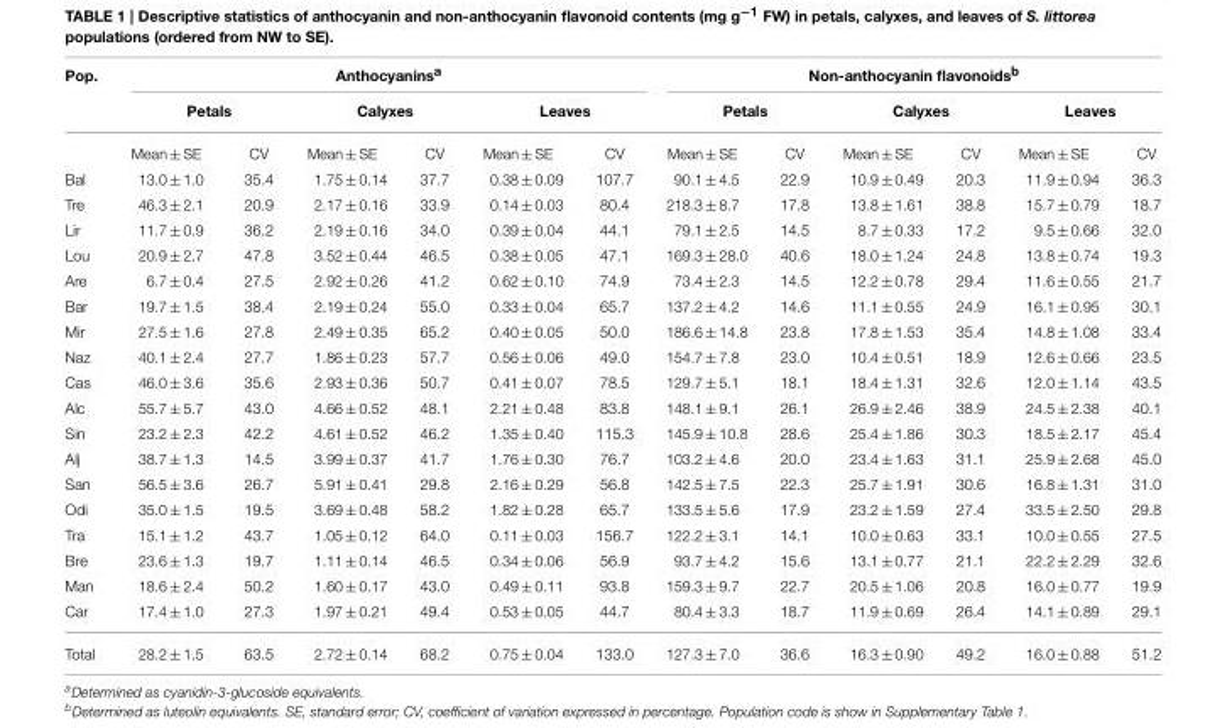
<table><thead><tr><td rowspan="3">Pop.</td><td colspan="6">Anthocyanins<sup>a</sup></td><td colspan="6">Non-anthocyanin flavonoids<sup>b</sup></td></tr><tr><td colspan="2">Petals</td><td colspan="2">Calyxes</td><td colspan="2">Leaves</td><td colspan="2">Petals</td><td colspan="2">Calyxes</td><td colspan="2">Leaves</td></tr><tr><td>Mean ± SE</td><td>CV</td><td>Mean ± SE</td><td>CV</td><td>Mean ± SE</td><td>CV</td><td>Mean ± SE</td><td>CV</td><td>Mean ± SE</td><td>CV</td><td>Mean ± SE</td><td>CV</td></tr></thead><tbody><tr><td>Bal</td><td>13.0 ± 1.0</td><td>35.4</td><td>1.75 ± 0.14</td><td>37.7</td><td>0.38 ± 0.09</td><td>107.7</td><td>90.1 ± 4.5</td><td>22.9</td><td>10.9 ± 0.49</td><td>20.3</td><td>11.9 ± 0.94</td><td>36.3</td></tr><tr><td>Tre</td><td>46.3 ± 2.1</td><td>20.9</td><td>2.17 ± 0.16</td><td>33.9</td><td>0.14 ± 0.03</td><td>80.4</td><td>218.3 ± 8.7</td><td>17.8</td><td>13.8 ± 1.61</td><td>38.8</td><td>15.7 ± 0.79</td><td>18.7</td></tr><tr><td>Lir</td><td>11.7 ± 0.9</td><td>36.2</td><td>2.19 ± 0.16</td><td>34.0</td><td>0.39 ± 0.04</td><td>44.1</td><td>79.1 ± 2.5</td><td>14.5</td><td>8.7 ± 0.33</td><td>17.2</td><td>9.5 ± 0.66</td><td>32.0</td></tr><tr><td>Lou</td><td>20.9 ± 2.7</td><td>47.8</td><td>3.52 ± 0.44</td><td>46.5</td><td>0.38 ± 0.05</td><td>47.1</td><td>169.3 ± 28.0</td><td>40.6</td><td>18.0 ± 1.24</td><td>24.8</td><td>13.8 ± 0.74</td><td>19.3</td></tr><tr><td>Are</td><td>6.7 ± 0.4</td><td>27.5</td><td>2.92 ± 0.26</td><td>41.2</td><td>0.62 ± 0.10</td><td>74.9</td><td>73.4 ± 2.3</td><td>14.5</td><td>12.2 ± 0.78</td><td>29.4</td><td>11.6 ± 0.55</td><td>21.7</td></tr><tr><td>Bar</td><td>19.7 ± 1.5</td><td>38.4</td><td>2.19 ± 0.24</td><td>55.0</td><td>0.33 ± 0.04</td><td>65.7</td><td>137.2 ± 4.2</td><td>14.6</td><td>11.1 ± 0.55</td><td>24.9</td><td>16.1 ± 0.95</td><td>30.1</td></tr><tr><td>Mir</td><td>27.5 ± 1.6</td><td>27.8</td><td>2.49 ± 0.35</td><td>65.2</td><td>0.40 ± 0.05</td><td>50.0</td><td>186.6 ± 14.8</td><td>23.8</td><td>17.8 ± 1.53</td><td>35.4</td><td>14.8 ± 1.08</td><td>33.4</td></tr><tr><td>Naz</td><td>40.1 ± 2.4</td><td>27.7</td><td>1.86 ± 0.23</td><td>57.7</td><td>0.56 ± 0.06</td><td>49.0</td><td>154.7 ± 7.8</td><td>23.0</td><td>10.4 ± 0.51</td><td>18.9</td><td>12.6 ± 0.66</td><td>23.5</td></tr><tr><td>Cas</td><td>46.0 ± 3.6</td><td>35.6</td><td>2.93 ± 0.36</td><td>50.7</td><td>0.41 ± 0.07</td><td>78.5</td><td>129.7 ± 5.1</td><td>18.1</td><td>18.4 ± 1.31</td><td>32.6</td><td>12.0 ± 1.14</td><td>43.5</td></tr><tr><td>Alc</td><td>55.7 ± 5.7</td><td>43.0</td><td>4.66 ± 0.52</td><td>48.1</td><td>2.21 ± 0.48</td><td>83.8</td><td>148.1 ± 9.1</td><td>26.1</td><td>26.9 ± 2.46</td><td>38.9</td><td>24.5 ± 2.38</td><td>40.1</td></tr><tr><td>Sin</td><td>23.2 ± 2.3</td><td>42.2</td><td>4.61 ± 0.52</td><td>46.2</td><td>1.35 ± 0.40</td><td>115.3</td><td>145.9 ± 10.8</td><td>28.6</td><td>25.4 ± 1.86</td><td>30.3</td><td>18.5 ± 2.17</td><td>45.4</td></tr><tr><td>Alj</td><td>38.7 ± 1.3</td><td>14.5</td><td>3.99 ± 0.37</td><td>41.7</td><td>1.76 ± 0.30</td><td>76.7</td><td>103.2 ± 4.6</td><td>20.0</td><td>23.4 ± 1.63</td><td>31.1</td><td>25.9 ± 2.68</td><td>45.0</td></tr><tr><td>San</td><td>56.5 ± 3.6</td><td>26.7</td><td>5.91 ± 0.41</td><td>29.8</td><td>2.16 ± 0.29</td><td>56.8</td><td>142.5 ± 7.5</td><td>22.3</td><td>25.7 ± 1.91</td><td>30.6</td><td>16.8 ± 1.31</td><td>31.0</td></tr><tr><td>Odi</td><td>35.0 ± 1.5</td><td>19.5</td><td>3.69 ± 0.48</td><td>58.2</td><td>1.82 ± 0.28</td><td>65.7</td><td>133.5 ± 5.6</td><td>17.9</td><td>23.2 ± 1.59</td><td>27.4</td><td>33.5 ± 2.50</td><td>29.8</td></tr><tr><td>Tra</td><td>15.1 ± 1.2</td><td>43.7</td><td>1.05 ± 0.12</td><td>64.0</td><td>0.11 ± 0.03</td><td>156.7</td><td>122.2 ± 3.1</td><td>14.1</td><td>10.0 ± 0.63</td><td>33.1</td><td>10.0 ± 0.55</td><td>27.5</td></tr><tr><td>Bre</td><td>23.6 ± 1.3</td><td>19.7</td><td>1.11 ± 0.14</td><td>46.5</td><td>0.34 ± 0.06</td><td>56.9</td><td>93.7 ± 4.2</td><td>15.6</td><td>13.1 ± 0.77</td><td>21.1</td><td>22.2 ± 2.29</td><td>32.6</td></tr><tr><td>Man</td><td>18.6 ± 2.4</td><td>50.2</td><td>1.60 ± 0.17</td><td>43.0</td><td>0.49 ± 0.11</td><td>93.8</td><td>159.3 ± 9.7</td><td>22.7</td><td>20.5 ± 1.06</td><td>20.8</td><td>16.0 ± 0.77</td><td>19.9</td></tr><tr><td>Car</td><td>17.4 ± 1.0</td><td>27.3</td><td>1.97 ± 0.21</td><td>49.4</td><td>0.53 ± 0.05</td><td>44.7</td><td>80.4 ± 3.3</td><td>18.7</td><td>11.9 ± 0.69</td><td>26.4</td><td>14.1 ± 0.89</td><td>29.1</td></tr><tr><td>Total</td><td>28.2 ± 1.5</td><td>63.5</td><td>2.72 ± 0.14</td><td>68.2</td><td>0.75 ± 0.04</td><td>133.0</td><td>127.3 ± 7.0</td><td>36.6</td><td>16.3 ± 0.90</td><td>49.2</td><td>16.0 ± 0.88</td><td>51.2</td></tr></tbody></table>